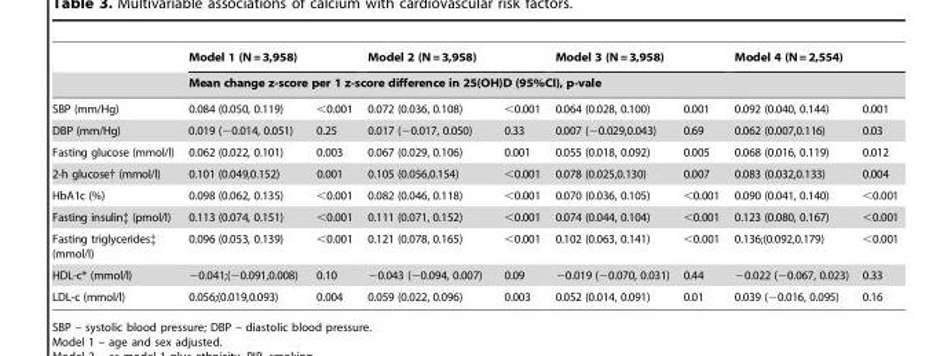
<table><thead><tr><td rowspan="3">SBP (mm/Hg)</td><td colspan="2">Model 1 (N=3,958)</td><td colspan="2">Model 2 (N =3,958)</td><td colspan="2">Model 3 (N =3,958)</td><td colspan="2">Model 4 (N= 2,554)</td></tr><tr><td colspan="8">Mean change z-score per 1 z-score difference in 25(OH)D (95%CI), p-vale</td></tr><tr><td>0.084 (0.050, 0.119)</td><td>&lt;0.001</td><td>0.072 (0.036, 0.108)</td><td>&lt;0.001</td><td>0.064 (0.028, 0.100)</td><td>0.001</td><td>0.092 (0.040, 0.144)</td><td>0.001</td></tr></thead><tbody><tr><td>DBP (mm/Hg)</td><td>0.019 (−0.014, 0.051)</td><td>0.25</td><td>0.017 (−0.017, 0.050)</td><td>0.33</td><td>0.007 (−0.029,0.043)</td><td>0.69</td><td>0.062 (0.007,0.116)</td><td>0.03</td></tr><tr><td>Fasting glucose (mmol/l)</td><td>0.062 (0.022, 0.101)</td><td>0.003</td><td>0.067 (0.029, 0.106)</td><td>0.001</td><td>0.055 (0.018, 0.092)</td><td>0.005</td><td>0.068 (0.016, 0.119)</td><td>0.012</td></tr><tr><td>2-h glucose† (mmol/l)</td><td>0.101 (0.049,0.152)</td><td>0.001</td><td>0.105 (0.056,0.154)</td><td>&lt;0.001</td><td>0.078 (0.025,0.130)</td><td>0.007</td><td>0.083 (0.032,0.133)</td><td>0.004</td></tr><tr><td>HbA1c (%)</td><td>0.098 (0.062, 0.135)</td><td>&lt;0.001</td><td>0.082 (0.046, 0.118)</td><td>&lt;0.001</td><td>0.070 (0.036, 0.105)</td><td>&lt;0.001</td><td>0.090 (0.041, 0.140)</td><td>&lt;0.001</td></tr><tr><td>Fasting insulin‡ (pmol/l)</td><td>0.113 (0.074, 0.151)</td><td>&lt;0.001</td><td>0.111 (0.071, 0.152)</td><td>&lt;0.001</td><td>0.074 (0.044, 0.104)</td><td>&lt;0.001</td><td>0.123 (0.080, 0.167)</td><td>&lt;0.001</td></tr><tr><td>Fasting triglycerides‡ (mmol/l)</td><td>0.096 (0.053, 0.139)</td><td>&lt;0.001</td><td>0.121 (0.078, 0.165)</td><td>&lt;0.001</td><td>0.102 (0.063, 0.141)</td><td>&lt;0.001</td><td>0.136;(0.092,0.179)</td><td>&lt;0.001</td></tr><tr><td>HDL-c* (mmol/l)</td><td>−0.041;(−0.091,0.008)</td><td>0.10</td><td>−0.043 (−0.094, 0.007)</td><td>0.09</td><td>−0.019 (−0.070, 0.031)</td><td>0.44</td><td>−0.022 (−0.067, 0.023)</td><td>0.33</td></tr><tr><td>LDL-c (mmol/l)</td><td>0.056;(0.019,0.093)</td><td>0.004</td><td>0.059 (0.022, 0.096)</td><td>0.003</td><td>0.052 (0.014, 0.091)</td><td>0.01</td><td>0.039 (−0.016, 0.095)</td><td>0.16</td></tr></tbody></table>